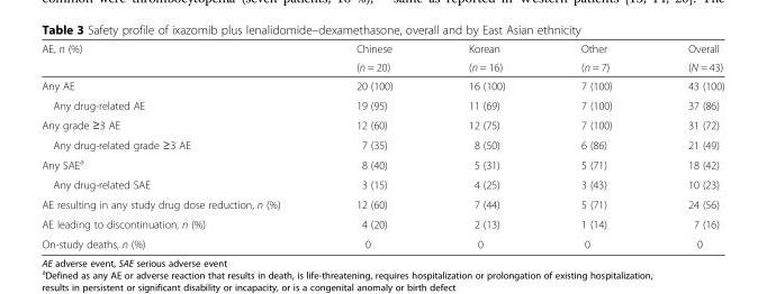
<table><thead><tr><td rowspan="2">AE, n (%)</td><td rowspan="2">Chinese (n = 20)</td><td rowspan="2">Korean (n = 16)</td><td rowspan="2">Other (n = 7)</td><td rowspan="2">Overall (N = 43)</td></tr><tr></tr></thead><tbody><tr><td>Any AE</td><td>20 (100)</td><td>16 (100)</td><td>7 (100)</td><td>43 (100)</td></tr><tr><td>Any drug-related AE</td><td>19 (95)</td><td>11 (69)</td><td>7 (100)</td><td>37 (86)</td></tr><tr><td>Any grade ≥3 AE</td><td>12 (60)</td><td>12 (75)</td><td>7 (100)</td><td>31 (72)</td></tr><tr><td>Any drug-related grade ≥3 AE</td><td>7 (35)</td><td>8 (50)</td><td>6 (86)</td><td>21 (49)</td></tr><tr><td>Any SAE<sup>a</sup></td><td>8 (40)</td><td>5 (31)</td><td>5 (71)</td><td>18 (42)</td></tr><tr><td>Any drug-related SAE</td><td>3 (15)</td><td>4 (25)</td><td>3 (43)</td><td>10 (23)</td></tr><tr><td>AE resulting in any study drug dose reduction, n (%)</td><td>12 (60)</td><td>7 (44)</td><td>5 (71)</td><td>24 (56)</td></tr><tr><td>AE leading to discontinuation, n (%)</td><td>4 (20)</td><td>2 (13)</td><td>1 (14)</td><td>7 (16)</td></tr><tr><td>On-study deaths, n (%)</td><td>0</td><td>0</td><td>0</td><td>0</td></tr></tbody></table>